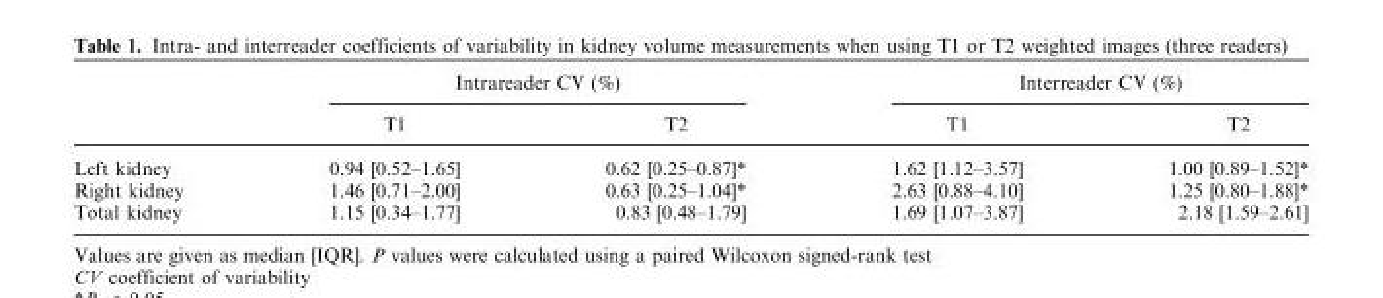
<table><thead><tr><td rowspan="2"></td><td colspan="2">Intrareader CV (%)</td><td colspan="2">Interreader CV (%)</td></tr><tr><td>T1</td><td>T2</td><td>T1</td><td>T2</td></tr></thead><tbody><tr><td>Left kidney</td><td>0.94 [0.52–1.65]</td><td>0.62 [0.25–0.87]*</td><td>1.62 [1.12–3.57]</td><td>1.00 [0.89–1.52]*</td></tr><tr><td>Right kidney</td><td>1.46 [0.71–2.00]</td><td>0.63 [0.25–1.04]*</td><td>2.63 [0.88–4.10]</td><td>1.25 [0.80–1.88]*</td></tr><tr><td>Total kidney</td><td>1.15 [0.34–1.77]</td><td>0.83 [0.48–1.79]</td><td>1.69 [1.07–3.87]</td><td>2.18 [1.59–2.61]</td></tr></tbody></table>